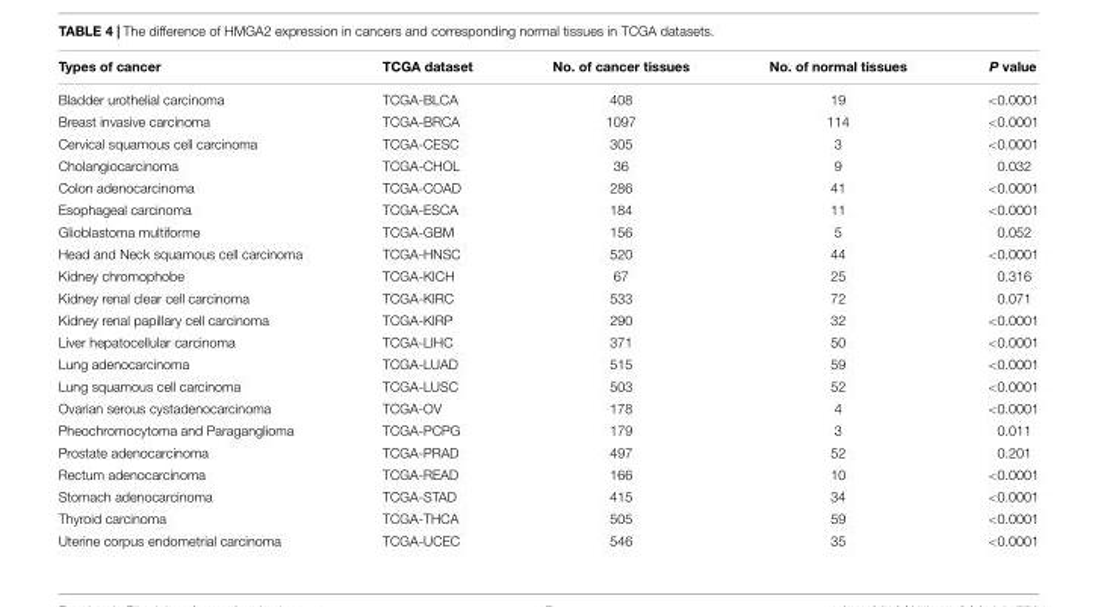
<table><thead><tr><td>Types of cancer</td><td>TCGA dataset</td><td>No. of cancer tissues</td><td>No. of normal tissues</td><td>P value</td></tr></thead><tbody><tr><td>Bladder urothelial carcinoma</td><td>TCGA-BLCA</td><td>408</td><td>19</td><td>&lt;0.0001</td></tr><tr><td>Breast invasive carcinoma</td><td>TCGA-BRCA</td><td>1097</td><td>114</td><td>&lt;0.0001</td></tr><tr><td>Cervical squamous cell carcinoma</td><td>TCGA-CESC</td><td>305</td><td>3</td><td>&lt;0.0001</td></tr><tr><td>Cholangiocarcinoma</td><td>TCGA-CHOL</td><td>36</td><td>9</td><td>0.032</td></tr><tr><td>Colon adenocarcinoma</td><td>TCGA-COAD</td><td>286</td><td>41</td><td>&lt;0.0001</td></tr><tr><td>Esophageal carcinoma</td><td>TCGA-ESCA</td><td>184</td><td>11</td><td>&lt;0.0001</td></tr><tr><td>Glioblastoma multiforme</td><td>TCGA-GBM</td><td>156</td><td>5</td><td>0.052</td></tr><tr><td>Head and Neck squamous cell carcinoma</td><td>TCGA-HNSC</td><td>520</td><td>44</td><td>&lt;0.0001</td></tr><tr><td>Kidney chromophobe</td><td>TCGA-KICH</td><td>67</td><td>25</td><td>0.316</td></tr><tr><td>Kidney renal clear cell carcinoma</td><td>TCGA-KIRC</td><td>533</td><td>72</td><td>0.071</td></tr><tr><td>Kidney renal papillary cell carcinoma</td><td>TCGA-KIRP</td><td>290</td><td>32</td><td>&lt;0.0001</td></tr><tr><td>Liver hepatocellular carcinoma</td><td>TCGA-LIHC</td><td>371</td><td>50</td><td>&lt;0.0001</td></tr><tr><td>Lung adenocarcinoma</td><td>TCGA-LUAD</td><td>515</td><td>59</td><td>&lt;0.0001</td></tr><tr><td>Lung squamous cell carcinoma</td><td>TCGA-LUSC</td><td>503</td><td>52</td><td>&lt;0.0001</td></tr><tr><td>Ovarian serous cystadenocarcinoma</td><td>TCGA-OV</td><td>178</td><td>4</td><td>&lt;0.0001</td></tr><tr><td>Pheochromocytoma and Paraganglioma</td><td>TCGA-PCPG</td><td>179</td><td>3</td><td>0.011</td></tr><tr><td>Prostate adenocarcinoma</td><td>TCGA-PRAD</td><td>497</td><td>52</td><td>0.201</td></tr><tr><td>Rectum adenocarcinoma</td><td>TCGA-READ</td><td>166</td><td>10</td><td>&lt;0.0001</td></tr><tr><td>Stomach adenocarcinoma</td><td>TCGA-STAD</td><td>415</td><td>34</td><td>&lt;0.0001</td></tr><tr><td>Thyroid carcinoma</td><td>TCGA-THCA</td><td>505</td><td>59</td><td>&lt;0.0001</td></tr><tr><td>Uterine corpus endometrial carcinoma</td><td>TCGA-UCEC</td><td>546</td><td>35</td><td>&lt;0.0001</td></tr></tbody></table>